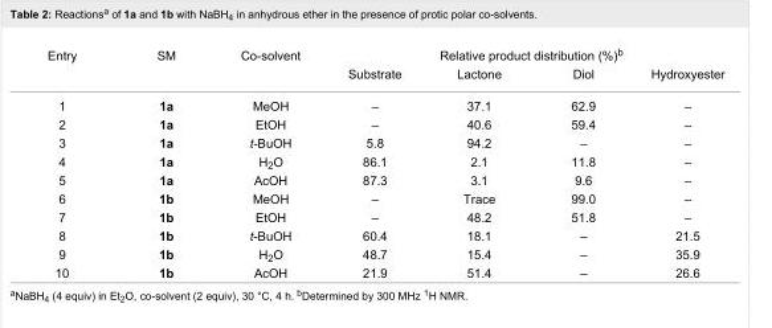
<table><tbody><tr><td rowspan="2">Entry</td><td rowspan="2">SM</td><td rowspan="2">Co-solvent</td><td colspan="4">Relative product distribution (%)<sup>b</sup></td></tr><tr><td>Substrate</td><td>Lactone</td><td>Diol</td><td>Hydroxyester</td></tr><tr><td>1</td><td>1a</td><td>MeOH</td><td>–</td><td>37.1</td><td>62.9</td><td>–</td></tr><tr><td>2</td><td>1a</td><td>EtOH</td><td>–</td><td>40.6</td><td>59.4</td><td>–</td></tr><tr><td>3</td><td>1a</td><td>t-BuOH</td><td>5.8</td><td>94.2</td><td>–</td><td>–</td></tr><tr><td>4</td><td>1a</td><td>H<sub>2</sub>O</td><td>86.1</td><td>2.1</td><td>11.8</td><td>–</td></tr><tr><td>5</td><td>1a</td><td>AcOH</td><td>87.3</td><td>3.1</td><td>9.6</td><td>–</td></tr><tr><td>6</td><td>1b</td><td>MeOH</td><td>–</td><td>Trace</td><td>99.0</td><td>–</td></tr><tr><td>7</td><td>1b</td><td>EtOH</td><td>–</td><td>48.2</td><td>51.8</td><td>–</td></tr><tr><td>8</td><td>1b</td><td>t-BuOH</td><td>60.4</td><td>18.1</td><td>–</td><td>21.5</td></tr><tr><td>9</td><td>1b</td><td>H<sub>2</sub>O</td><td>48.7</td><td>15.4</td><td>–</td><td>35.9</td></tr><tr><td>10</td><td>1b</td><td>AcOH</td><td>21.9</td><td>51.4</td><td>–</td><td>26.6</td></tr></tbody></table>